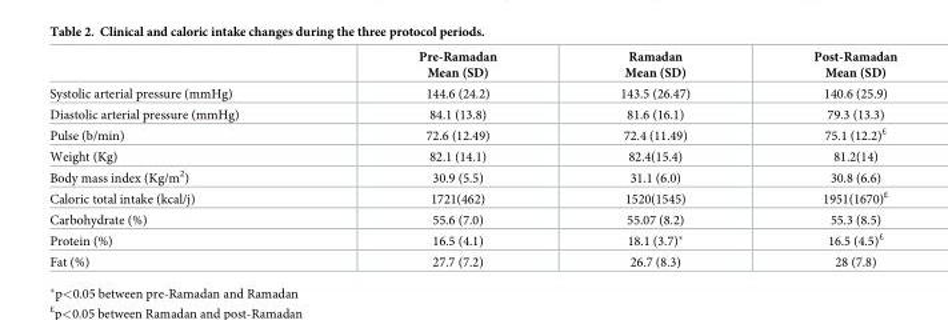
<table><thead><tr><td></td><td>Pre-Ramadan Mean (SD)</td><td>Ramadan Mean (SD)</td><td>Post-Ramadan Mean (SD)</td></tr></thead><tbody><tr><td>Systolic arterial pressure (mmHg)</td><td>144.6 (24.2)</td><td>143.5 (26.47)</td><td>140.6 (25.9)</td></tr><tr><td>Diastolic arterial pressure (mmHg)</td><td>84.1 (13.8)</td><td>81.6 (16.1)</td><td>79.3 (13.3)</td></tr><tr><td>Pulse (b/min)</td><td>72.6 (12.49)</td><td>72.4 (11.49)</td><td>75.1 (12.2)<sup>£</sup></td></tr><tr><td>Weight (Kg)</td><td>82.1 (14.1)</td><td>82.4(15.4)</td><td>81.2(14)</td></tr><tr><td>Body mass index (Kg/m<sup>2</sup>)</td><td>30.9 (5.5)</td><td>31.1 (6.0)</td><td>30.8 (6.6)</td></tr><tr><td>Caloric total intake (kcal/j)</td><td>1721(462)</td><td>1520(1545)</td><td>1951(1670)<sup>£</sup></td></tr><tr><td>Carbohydrate (%)</td><td>55.6 (7.0)</td><td>55.07 (8.2)</td><td>55.3 (8.5)</td></tr><tr><td>Protein (%)</td><td>16.5 (4.1)</td><td>18.1 (3.7)*</td><td>16.5 (4.5)<sup>£</sup></td></tr><tr><td>Fat (%)</td><td>27.7 (7.2)</td><td>26.7 (8.3)</td><td>28 (7.8)</td></tr></tbody></table>